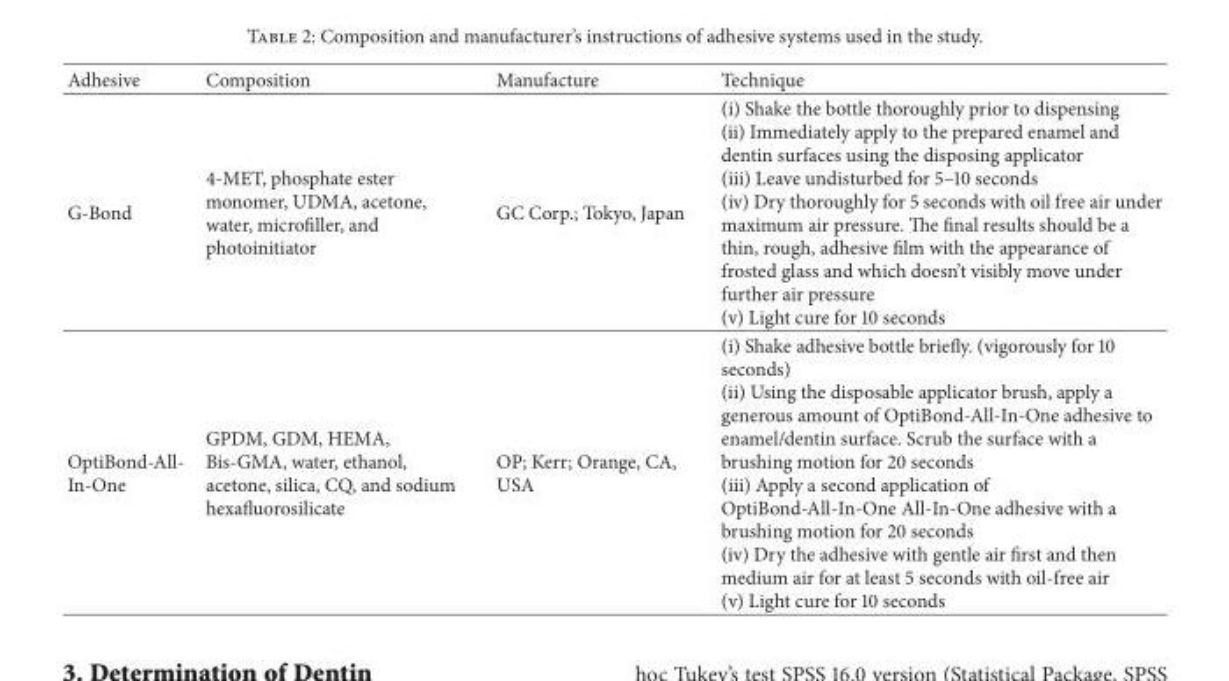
<table><thead><tr><td>Adhesive</td><td>Composition</td><td>Manufacture</td><td>Technique</td></tr></thead><tbody><tr><td>G-Bond</td><td>4-MET, phosphate ester monomer, UDMA, acetone, water, microfiller, and photoinitiator</td><td>GC Corp.; Tokyo, Japan</td><td>(i) Shake the bottle thoroughly prior to dispensing (ii) Immediately apply to the prepared enamel and dentin surfaces using the disposing applicator (iii) Leave undisturbed for 5–10 seconds (iv) Dry thoroughly for 5 seconds with oil free air under maximum air pressure. The final results should be a thin, rough, adhesive film with the appearance of frosted glass and which doesn’t visibly move under further air pressure (v) Light cure for 10 seconds</td></tr><tr><td>OptiBond-All- In-One</td><td>GPDM, GDM, HEMA, Bis-GMA, water, ethanol, acetone, silica, CQ, and sodium hexafluorosilicate</td><td>OP; Kerr; Orange, CA, USA</td><td>(i) Shake adhesive bottle briefly. (vigorously for 10 seconds) (ii) Using the disposable applicator brush, apply a generous amount of OptiBond-All-In-One adhesive to enamel/dentin surface. Scrub the surface with a brushing motion for 20 seconds (iii) Apply a second application of OptiBond-All-In-One All-In-One adhesive with a brushing motion for 20 seconds (iv) Dry the adhesive with gentle air first and then medium air for at least 5 seconds with oil-free air (v) Light cure for 10 seconds</td></tr></tbody></table>